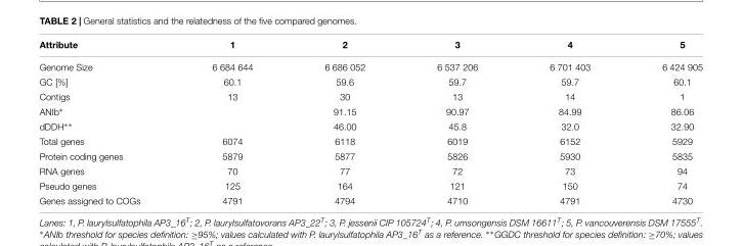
<table><thead><tr><td>Attribute</td><td>1</td><td>2</td><td>3</td><td>4</td><td>5</td></tr></thead><tbody><tr><td>Genome Size</td><td>6 684 644</td><td>6 686 052</td><td>6 537 206</td><td>6 701 403</td><td>6 424 905</td></tr><tr><td>GC [%]</td><td>60.1</td><td>59.6</td><td>59.7</td><td>59.7</td><td>60.1</td></tr><tr><td>Contigs</td><td>13</td><td>30</td><td>13</td><td>14</td><td>1</td></tr><tr><td>ANIb∗</td><td></td><td>91.15</td><td>90.97</td><td>84.99</td><td>86.06</td></tr><tr><td>dDDH∗∗</td><td></td><td>46.00</td><td>45.8</td><td>32.0</td><td>32.90</td></tr><tr><td>Total genes</td><td>6074</td><td>6118</td><td>6019</td><td>6152</td><td>5929</td></tr><tr><td>Protein coding genes</td><td>5879</td><td>5877</td><td>5826</td><td>5930</td><td>5835</td></tr><tr><td>RNA genes</td><td>70</td><td>77</td><td>72</td><td>73</td><td>94</td></tr><tr><td>Pseudo genes</td><td>125</td><td>164</td><td>121</td><td>150</td><td>74</td></tr><tr><td>Genes assigned to COGs</td><td>4791</td><td>4794</td><td>4710</td><td>4791</td><td>4730</td></tr></tbody></table>